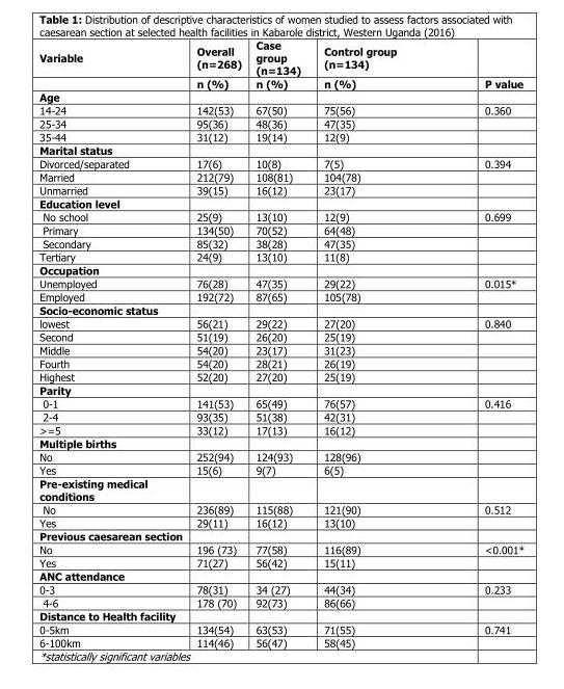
<table><thead><tr><td rowspan="2">Variable</td><td rowspan="2">Overall (n=268) n (%)</td><td rowspan="2">Case group (n=134) n (%)</td><td rowspan="2">Control group (n=134) n (%)</td><td rowspan="2">P value</td></tr><tr></tr></thead><tbody><tr><td colspan="5">Age</td></tr><tr><td>14-24</td><td>142(53)</td><td>67(50)</td><td>75(56)</td><td>0.360</td></tr><tr><td>25-34</td><td>95(36)</td><td>48(36)</td><td>47(35)</td><td></td></tr><tr><td>35-44</td><td>31(12)</td><td>19(14)</td><td>12(9)</td><td></td></tr><tr><td colspan="5">Marital status</td></tr><tr><td>Divorced/separated</td><td>17(6)</td><td>10(8)</td><td>7(5)</td><td>0.394</td></tr><tr><td>Married</td><td>212(79)</td><td>108(81)</td><td>104(78)</td><td></td></tr><tr><td>Unmarried</td><td>39(15)</td><td>16(12)</td><td>23(17)</td><td></td></tr><tr><td colspan="5">Education level</td></tr><tr><td>No school</td><td>25(9)</td><td>13(10)</td><td>12(9)</td><td>0.699</td></tr><tr><td>Primary</td><td>134(50)</td><td>70(52)</td><td>64(48)</td><td></td></tr><tr><td>Secondary</td><td>85(32)</td><td>38(28)</td><td>47(35)</td><td></td></tr><tr><td>Tertiary</td><td>24(9)</td><td>13(10)</td><td>11(8)</td><td></td></tr><tr><td colspan="5">Occupation</td></tr><tr><td>Unemployed</td><td>76(28)</td><td>47(35)</td><td>29(22)</td><td>0.015*</td></tr><tr><td>Employed</td><td>192(72)</td><td>87(65)</td><td>105(78)</td><td></td></tr><tr><td colspan="5">Socio-economic status</td></tr><tr><td>lowest</td><td>56(21)</td><td>29(22)</td><td>27(20)</td><td>0.840</td></tr><tr><td>Second</td><td>51(19)</td><td>26(20)</td><td>25(19)</td><td></td></tr><tr><td>Middle</td><td>54(20)</td><td>23(17)</td><td>31(23)</td><td></td></tr><tr><td>Fourth</td><td>54(20)</td><td>28(21)</td><td>26(19)</td><td></td></tr><tr><td>Highest</td><td>52(20)</td><td>27(20)</td><td>25(19)</td><td></td></tr><tr><td colspan="5">Parity</td></tr><tr><td>0-1</td><td>141(53)</td><td>65(49)</td><td>76(57)</td><td>0.416</td></tr><tr><td>2-4</td><td>93(35)</td><td>51(38)</td><td>42(31)</td><td></td></tr><tr><td>&gt;=5</td><td>33(12)</td><td>17(13)</td><td>16(12)</td><td></td></tr><tr><td colspan="5">Multiple births</td></tr><tr><td>No</td><td>252(94)</td><td>124(93)</td><td>128(96)</td><td></td></tr><tr><td>Yes</td><td>15(6)</td><td>9(7)</td><td>6(5)</td><td></td></tr><tr><td colspan="5">Pre-existing medical conditions</td></tr><tr><td>No</td><td>236(89)</td><td>115(88)</td><td>121(90)</td><td>0.512</td></tr><tr><td>Yes</td><td>29(11)</td><td>16(12)</td><td>13(10)</td><td></td></tr><tr><td colspan="5">Previous caesarean section</td></tr><tr><td>No</td><td>196 (73)</td><td>77(58)</td><td>116(89)</td><td>&lt;0.001*</td></tr><tr><td>Yes</td><td>71(27)</td><td>56(42)</td><td>15(11)</td><td></td></tr><tr><td colspan="5">ANC attendance</td></tr><tr><td>0-3</td><td>78(31)</td><td>34 (27)</td><td>44(34)</td><td>0.233</td></tr><tr><td>4-6</td><td>178 (70)</td><td>92(73)</td><td>86(66)</td><td></td></tr><tr><td colspan="5">Distance to Health facility</td></tr><tr><td>0-5km</td><td>134(54)</td><td>63(53)</td><td>71(55)</td><td>0.741</td></tr><tr><td>6-100km</td><td>114(46)</td><td>56(47)</td><td>58(45)</td><td></td></tr></tbody></table>